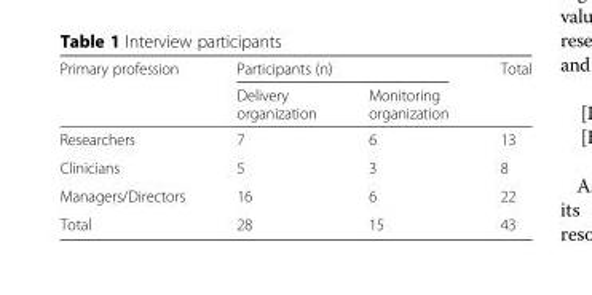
<table><thead><tr><td rowspan="2">Primary profession</td><td colspan="2">Participants (n)</td><td rowspan="2">Total</td></tr><tr><td>Delivery organization</td><td>Monitoring organization</td></tr></thead><tbody><tr><td>Researchers</td><td>7</td><td>6</td><td>13</td></tr><tr><td>Clinicians</td><td>5</td><td>3</td><td>8</td></tr><tr><td>Managers/Directors</td><td>16</td><td>6</td><td>22</td></tr><tr><td>Total</td><td>28</td><td>15</td><td>43</td></tr></tbody></table>